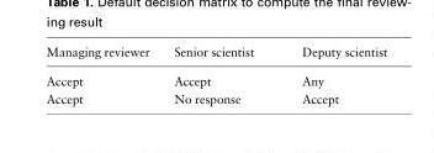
<table><thead><tr><td>Managing reviewer</td><td>Senior scientist</td><td>Deputy scientist</td></tr></thead><tbody><tr><td>Accept</td><td>Accept</td><td>Any</td></tr><tr><td>Accept</td><td>No response</td><td>Accept</td></tr></tbody></table>